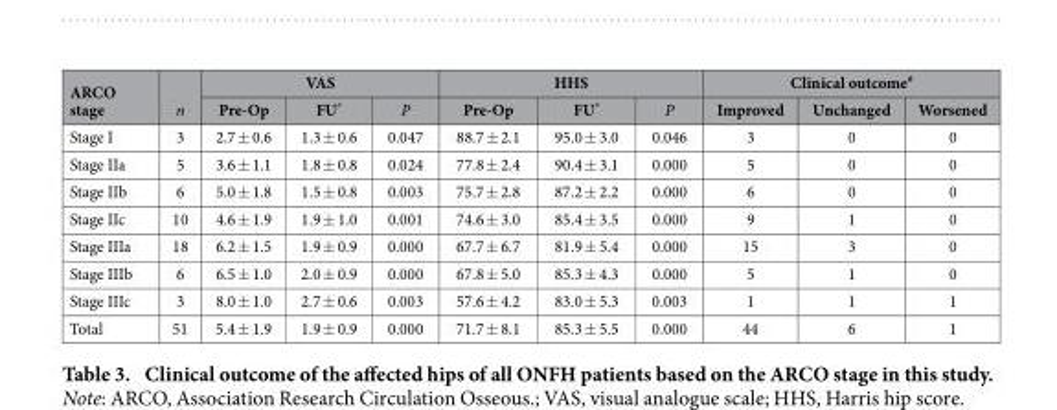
<table><thead><tr><td rowspan="2">ARCO stage</td><td rowspan="2">n</td><td colspan="3">VAS</td><td colspan="3">HHS</td><td colspan="3">Clinical outcome<sup>#</sup></td></tr><tr><td>Pre-Op</td><td>FU*</td><td>P</td><td>Pre-Op</td><td>FU*</td><td>P</td><td>Improved</td><td>Unchanged</td><td>Worsened</td></tr></thead><tbody><tr><td>Stage I</td><td>3</td><td>2.7 ± 0.6</td><td>1.3 ± 0.6</td><td>0.047</td><td>88.7 ± 2.1</td><td>95.0 ± 3.0</td><td>0.046</td><td>3</td><td>0</td><td>0</td></tr><tr><td>Stage IIa</td><td>5</td><td>3.6 ± 1.1</td><td>1.8 ± 0.8</td><td>0.024</td><td>77.8 ± 2.4</td><td>90.4 ± 3.1</td><td>0.000</td><td>5</td><td>0</td><td>0</td></tr><tr><td>Stage IIb</td><td>6</td><td>5.0 ± 1.8</td><td>1.5 ± 0.8</td><td>0.003</td><td>75.7 ± 2.8</td><td>87.2 ± 2.2</td><td>0.000</td><td>6</td><td>0</td><td>0</td></tr><tr><td>Stage IIc</td><td>10</td><td>4.6 ± 1.9</td><td>1.9 ± 1.0</td><td>0.001</td><td>74.6 ± 3.0</td><td>85.4 ± 3.5</td><td>0.000</td><td>9</td><td>1</td><td>0</td></tr><tr><td>Stage IIIa</td><td>18</td><td>6.2 ± 1.5</td><td>1.9 ± 0.9</td><td>0.000</td><td>67.7 ± 6.7</td><td>81.9 ± 5.4</td><td>0.000</td><td>15</td><td>3</td><td>0</td></tr><tr><td>Stage IIIb</td><td>6</td><td>6.5 ± 1.0</td><td>2.0 ± 0.9</td><td>0.000</td><td>67.8 ± 5.0</td><td>85.3 ± 4.3</td><td>0.000</td><td>5</td><td>1</td><td>0</td></tr><tr><td>Stage IIIc</td><td>3</td><td>8.0 ± 1.0</td><td>2.7 ± 0.6</td><td>0.003</td><td>57.6 ± 4.2</td><td>83.0 ± 5.3</td><td>0.003</td><td>1</td><td>1</td><td>1</td></tr><tr><td>Total</td><td>51</td><td>5.4 ± 1.9</td><td>1.9 ± 0.9</td><td>0.000</td><td>71.7 ± 8.1</td><td>85.3 ± 5.5</td><td>0.000</td><td>44</td><td>6</td><td>1</td></tr></tbody></table>